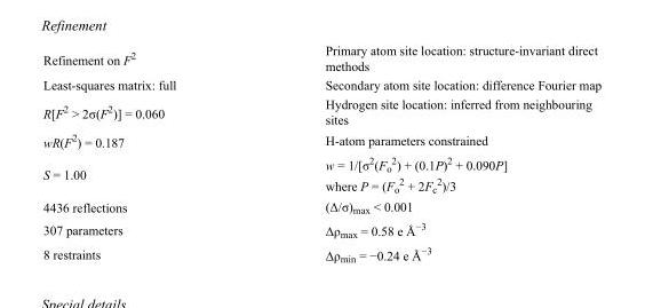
<table><tbody><tr><td>Refinement on F<sup>2</sup></td><td>Primary atom site location: structure-invariant direct methods</td></tr><tr><td>Least-squares matrix: full</td><td>Secondary atom site location: difference Fourier map</td></tr><tr><td>R[F<sup>2</sup> &gt; 2σ(F<sup>2</sup>)] = 0.060</td><td>Hydrogen site location: inferred from neighbouring sites</td></tr><tr><td>wR(F<sup>2</sup>) = 0.187</td><td>H-atom parameters constrained</td></tr><tr><td>S = 1.00</td><td>w = 1/[σ<sup>2</sup>(F<sub>o</sub> <sup>2</sup>) + (0.1P)<sup>2</sup> + 0.090P] where P = (F<sub>o</sub> <sup>2</sup> + 2F<sub>c</sub> <sup>2</sup>)/3</td></tr><tr><td>4436 reflections</td><td>(Δ/σ)<sub>max</sub> &lt; 0.001</td></tr><tr><td>307 parameters</td><td>Δρ<sub>max</sub> = 0.58 e Å<sup>−3</sup></td></tr><tr><td>8 restraints</td><td>Δρ<sub>min</sub> = −0.24 e Å<sup>−3</sup></td></tr></tbody></table>